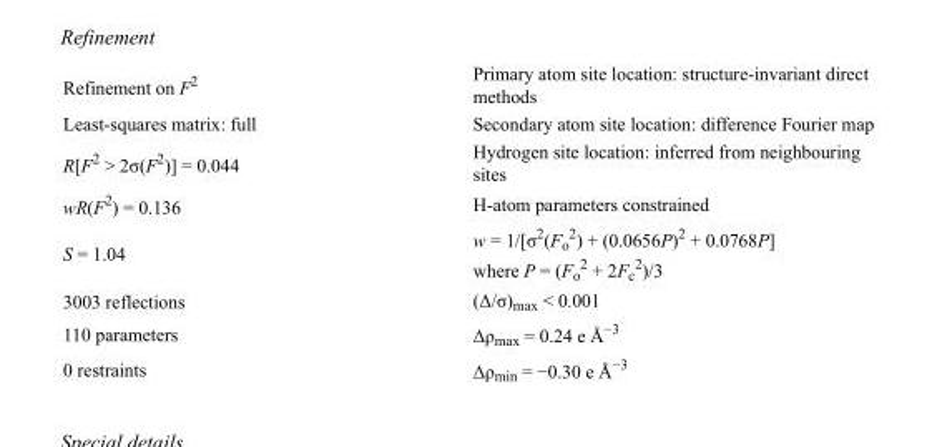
<table><tbody><tr><td>Refinement on F<sup>2</sup></td><td>Primary atom site location: structure-invariant direct methods</td></tr><tr><td>Least-squares matrix: full</td><td>Secondary atom site location: difference Fourier map</td></tr><tr><td>R[F<sup>2</sup> &gt; 2σ(F<sup>2</sup>)] = 0.044</td><td>Hydrogen site location: inferred from neighbouring sites</td></tr><tr><td>wR(F<sup>2</sup>) = 0.136</td><td>H-atom parameters constrained</td></tr><tr><td>S = 1.04</td><td>w = 1/[σ<sup>2</sup>(F<sub>o</sub> <sup>2</sup>) + (0.0656P)<sup>2</sup> + 0.0768P] where P = (F<sub>o</sub> <sup>2</sup> + 2F<sub>c</sub> <sup>2</sup>)/3</td></tr><tr><td>3003 reflections</td><td>(Δ/σ)<sub>max</sub> &lt; 0.001</td></tr><tr><td>110 parameters</td><td>Δρ<sub>max</sub> = 0.24 e Å<sup>−3</sup></td></tr><tr><td>0 restraints</td><td>Δρ<sub>min</sub> = −0.30 e Å<sup>−3</sup></td></tr></tbody></table>